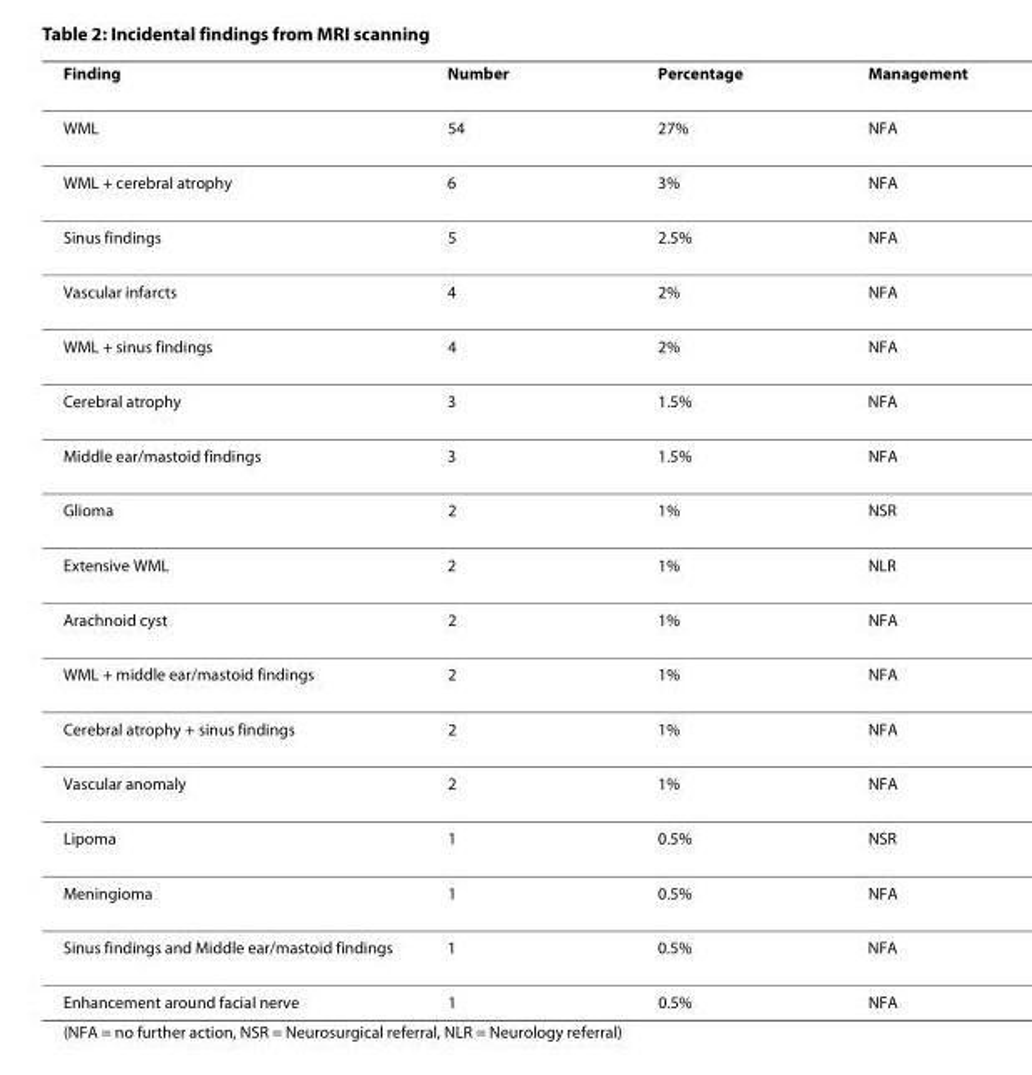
<table><thead><tr><td>Finding</td><td>Number</td><td>Percentage</td><td>Management</td></tr></thead><tbody><tr><td>WML</td><td>54</td><td>27%</td><td>NFA</td></tr><tr><td>WML + cerebral atrophy</td><td>6</td><td>3%</td><td>NFA</td></tr><tr><td>Sinus findings</td><td>5</td><td>2.5%</td><td>NFA</td></tr><tr><td>Vascular infarcts</td><td>4</td><td>2%</td><td>NFA</td></tr><tr><td>WML + sinus findings</td><td>4</td><td>2%</td><td>NFA</td></tr><tr><td>Cerebral atrophy</td><td>3</td><td>1.5%</td><td>NFA</td></tr><tr><td>Middle ear/mastoid findings</td><td>3</td><td>1.5%</td><td>NFA</td></tr><tr><td>Glioma</td><td>2</td><td>1%</td><td>NSR</td></tr><tr><td>Extensive WML</td><td>2</td><td>1%</td><td>NLR</td></tr><tr><td>Arachnoid cyst</td><td>2</td><td>1%</td><td>NFA</td></tr><tr><td>WML + middle ear/mastoid findings</td><td>2</td><td>1%</td><td>NFA</td></tr><tr><td>Cerebral atrophy + sinus findings</td><td>2</td><td>1%</td><td>NFA</td></tr><tr><td>Vascular anomaly</td><td>2</td><td>1%</td><td>NFA</td></tr><tr><td>Lipoma</td><td>1</td><td>0.5%</td><td>NSR</td></tr><tr><td>Meningioma</td><td>1</td><td>0.5%</td><td>NFA</td></tr><tr><td>Sinus findings and Middle ear/mastoid findings</td><td>1</td><td>0.5%</td><td>NFA</td></tr><tr><td>Enhancement around facial nerve</td><td>1</td><td>0.5%</td><td>NFA</td></tr></tbody></table>